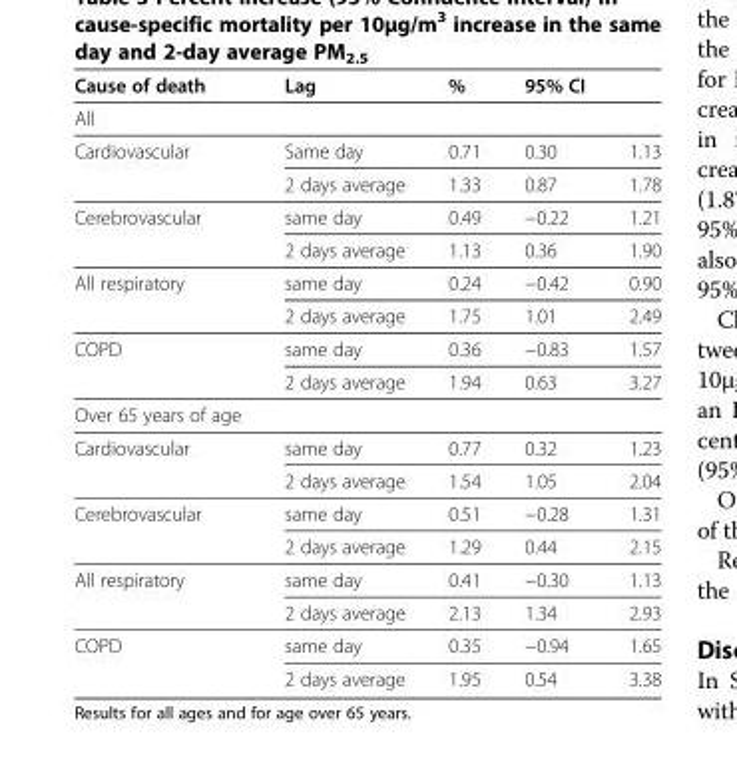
<table><thead><tr><td>Cause of death</td><td>Lag</td><td>%</td><td>95% CI</td><td></td></tr></thead><tbody><tr><td colspan="5">All</td></tr><tr><td rowspan="2">Cardiovascular</td><td>Same day</td><td>0.71</td><td>0.30</td><td>1.13</td></tr><tr><td>2 days average</td><td>1.33</td><td>0.87</td><td>1.78</td></tr><tr><td rowspan="2">Cerebrovascular</td><td>same day</td><td>0.49</td><td>−0.22</td><td>1.21</td></tr><tr><td>2 days average</td><td>1.13</td><td>0.36</td><td>1.90</td></tr><tr><td rowspan="2">All respiratory</td><td>same day</td><td>0.24</td><td>−0.42</td><td>0.90</td></tr><tr><td>2 days average</td><td>1.75</td><td>1.01</td><td>2.49</td></tr><tr><td rowspan="2">COPD</td><td>same day</td><td>0.36</td><td>−0.83</td><td>1.57</td></tr><tr><td>2 days average</td><td>1.94</td><td>0.63</td><td>3.27</td></tr><tr><td colspan="5">Over 65 years of age</td></tr><tr><td rowspan="2">Cardiovascular</td><td>same day</td><td>0.77</td><td>0.32</td><td>1.23</td></tr><tr><td>2 days average</td><td>1.54</td><td>1.05</td><td>2.04</td></tr><tr><td rowspan="2">Cerebrovascular</td><td>same day</td><td>0.51</td><td>−0.28</td><td>1.31</td></tr><tr><td>2 days average</td><td>1.29</td><td>0.44</td><td>2.15</td></tr><tr><td rowspan="2">All respiratory</td><td>same day</td><td>0.41</td><td>−0.30</td><td>1.13</td></tr><tr><td>2 days average</td><td>2.13</td><td>1.34</td><td>2.93</td></tr><tr><td rowspan="2">COPD</td><td>same day</td><td>0.35</td><td>−0.94</td><td>1.65</td></tr><tr><td>2 days average</td><td>1.95</td><td>0.54</td><td>3.38</td></tr></tbody></table>